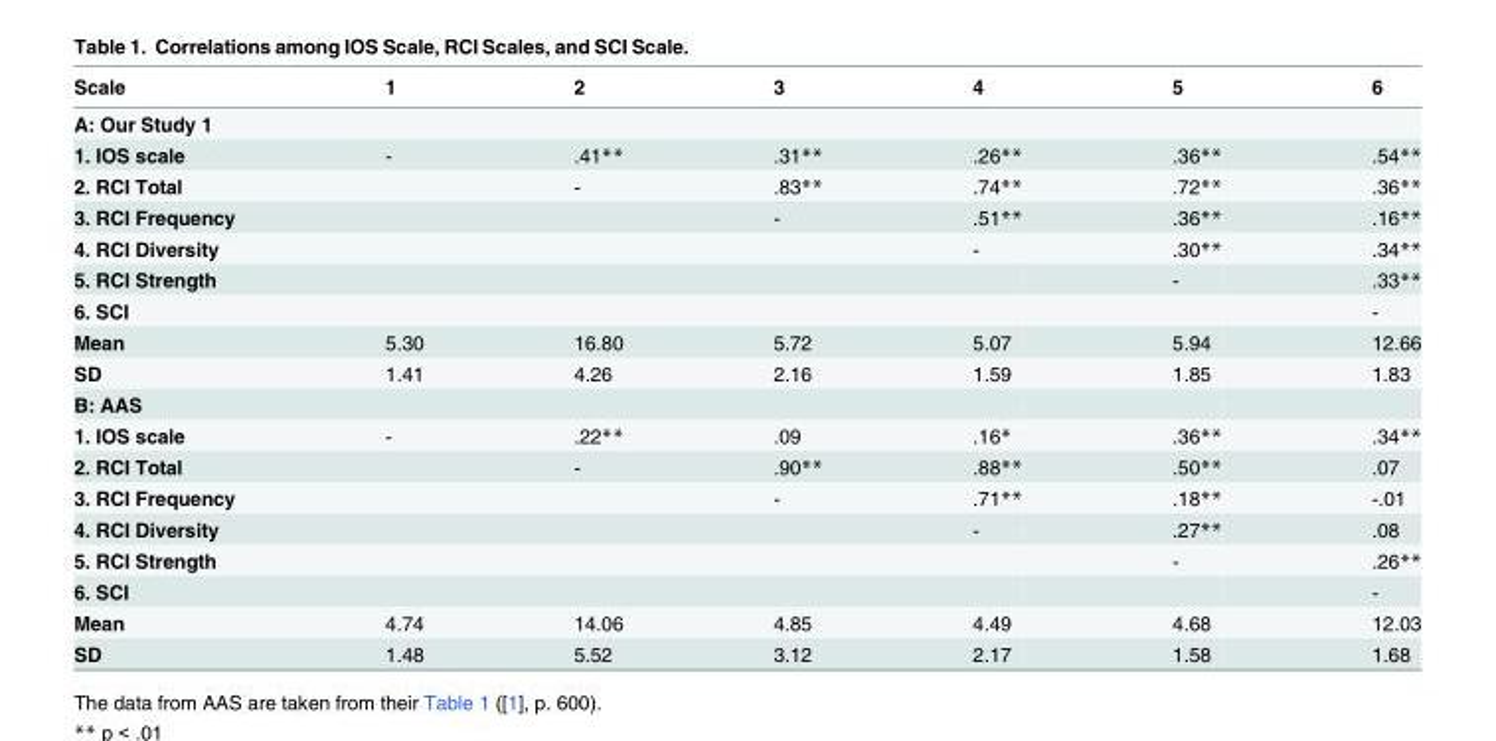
<table><thead><tr><td>Scale</td><td>1</td><td>2</td><td>3</td><td>4</td><td>5</td><td>6</td></tr></thead><tbody><tr><td colspan="7">A: Our Study 1</td></tr><tr><td>1. IOS scale</td><td>-</td><td>.41**</td><td>.31**</td><td>.26**</td><td>.36**</td><td>.54**</td></tr><tr><td>2. RCI Total</td><td></td><td>-</td><td>.83**</td><td>.74**</td><td>.72**</td><td>.36**</td></tr><tr><td>3. RCI Frequency</td><td></td><td></td><td>-</td><td>.51**</td><td>.36**</td><td>.16**</td></tr><tr><td>4. RCI Diversity</td><td></td><td></td><td></td><td>-</td><td>.30**</td><td>.34**</td></tr><tr><td>5. RCI Strength</td><td></td><td></td><td></td><td></td><td>-</td><td>.33**</td></tr><tr><td>6. SCI</td><td></td><td></td><td></td><td></td><td></td><td>-</td></tr><tr><td>Mean</td><td>5.30</td><td>16.80</td><td>5.72</td><td>5.07</td><td>5.94</td><td>12.66</td></tr><tr><td>SD</td><td>1.41</td><td>4.26</td><td>2.16</td><td>1.59</td><td>1.85</td><td>1.83</td></tr><tr><td colspan="7">B: AAS</td></tr><tr><td>1. IOS scale</td><td>-</td><td>.22**</td><td>.09</td><td>.16*</td><td>.36**</td><td>.34**</td></tr><tr><td>2. RCI Total</td><td></td><td>-</td><td>.90**</td><td>.88**</td><td>.50**</td><td>.07</td></tr><tr><td>3. RCI Frequency</td><td></td><td></td><td>-</td><td>.71**</td><td>.18**</td><td>-.01</td></tr><tr><td>4. RCI Diversity</td><td></td><td></td><td></td><td>-</td><td>.27**</td><td>.08</td></tr><tr><td>5. RCI Strength</td><td></td><td></td><td></td><td></td><td>-</td><td>.26**</td></tr><tr><td>6. SCI</td><td></td><td></td><td></td><td></td><td></td><td>-</td></tr><tr><td>Mean</td><td>4.74</td><td>14.06</td><td>4.85</td><td>4.49</td><td>4.68</td><td>12.03</td></tr><tr><td>SD</td><td>1.48</td><td>5.52</td><td>3.12</td><td>2.17</td><td>1.58</td><td>1.68</td></tr></tbody></table>